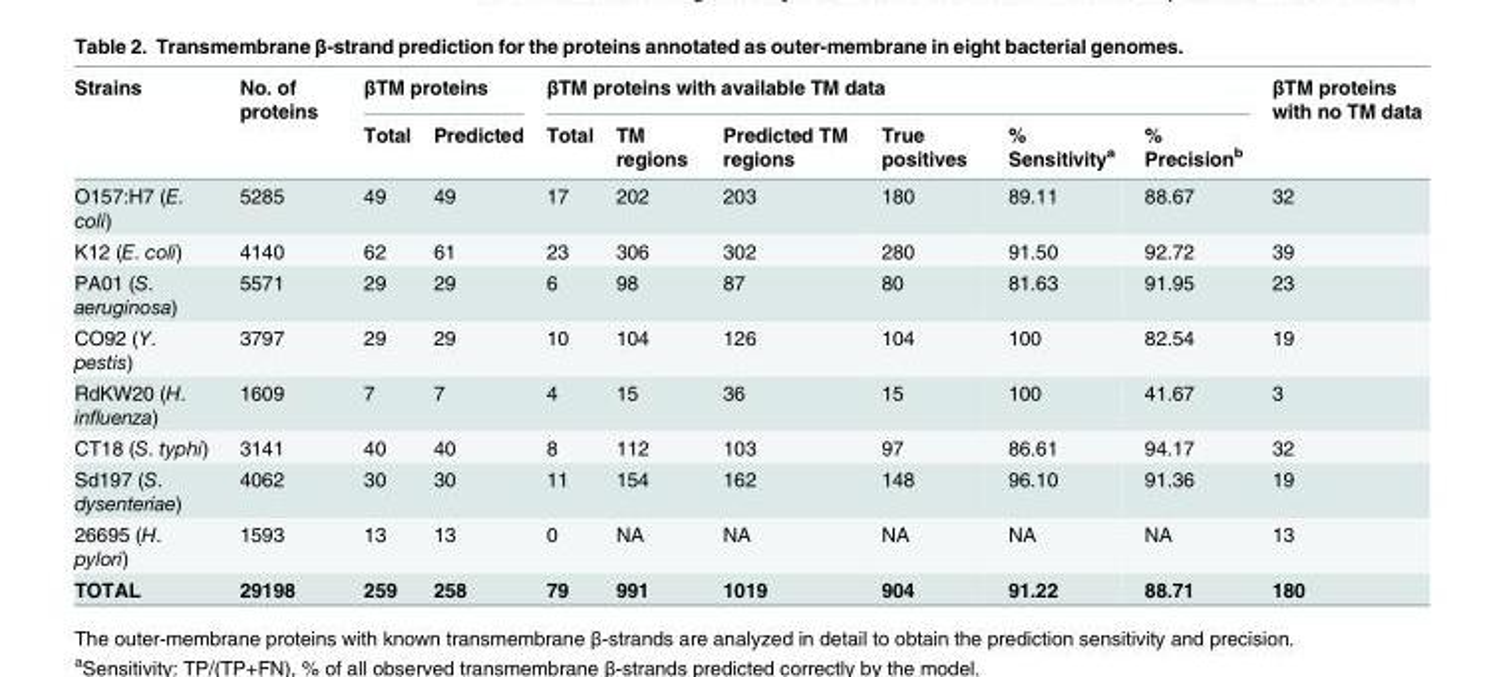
<table><thead><tr><td rowspan="2">Strains</td><td rowspan="2">No. of proteins</td><td colspan="2">βTM proteins</td><td colspan="6">βTM proteins with available TM data</td><td rowspan="2">βTM proteins with no TM data</td></tr><tr><td>Total</td><td>Predicted</td><td>Total</td><td>TM regions</td><td>Predicted TM regions</td><td>True positives</td><td>% Sensitivity<sup>a</sup></td><td>% Precision<sup>b</sup></td></tr></thead><tbody><tr><td>O157:H7 (E. coli)</td><td>5285</td><td>49</td><td>49</td><td>17</td><td>202</td><td>203</td><td>180</td><td>89.11</td><td>88.67</td><td>32</td></tr><tr><td>K12 (E. coli)</td><td>4140</td><td>62</td><td>61</td><td>23</td><td>306</td><td>302</td><td>280</td><td>91.50</td><td>92.72</td><td>39</td></tr><tr><td>PA01 (S. aeruginosa)</td><td>5571</td><td>29</td><td>29</td><td>6</td><td>98</td><td>87</td><td>80</td><td>81.63</td><td>91.95</td><td>23</td></tr><tr><td>CO92 (Y. pestis)</td><td>3797</td><td>29</td><td>29</td><td>10</td><td>104</td><td>126</td><td>104</td><td>100</td><td>82.54</td><td>19</td></tr><tr><td>RdKW20 (H. influenza)</td><td>1609</td><td>7</td><td>7</td><td>4</td><td>15</td><td>36</td><td>15</td><td>100</td><td>41.67</td><td>3</td></tr><tr><td>CT18 (S. typhi)</td><td>3141</td><td>40</td><td>40</td><td>8</td><td>112</td><td>103</td><td>97</td><td>86.61</td><td>94.17</td><td>32</td></tr><tr><td>Sd197 (S. dysenteriae)</td><td>4062</td><td>30</td><td>30</td><td>11</td><td>154</td><td>162</td><td>148</td><td>96.10</td><td>91.36</td><td>19</td></tr><tr><td>26695 (H. pylori)</td><td>1593</td><td>13</td><td>13</td><td>0</td><td>NA</td><td>NA</td><td>NA</td><td>NA</td><td>NA</td><td>13</td></tr><tr><td>TOTAL</td><td>29198</td><td>259</td><td>258</td><td>79</td><td>991</td><td>1019</td><td>904</td><td>91.22</td><td>88.71</td><td>180</td></tr></tbody></table>